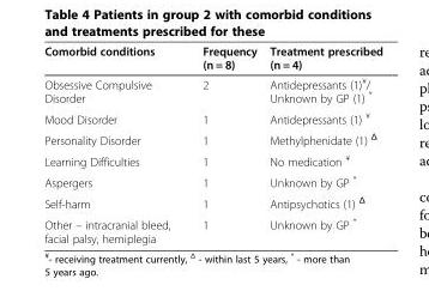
<table><thead><tr><td>Comorbid conditions</td><td>Frequency (n = 8)</td><td>Treatment prescribed (n = 4)</td></tr></thead><tbody><tr><td>Obsessive Compulsive Disorder</td><td>2</td><td>Antidepressants (1)<sup>¥</sup>/ Unknown by GP (1) *</td></tr><tr><td>Mood Disorder</td><td>1</td><td>Antidepressants (1) <sup>¥</sup></td></tr><tr><td>Personality Disorder</td><td>1</td><td>Methylphenidate (1) <sup>Δ</sup></td></tr><tr><td>Learning Difficulties</td><td>1</td><td>No medication <sup>¥</sup></td></tr><tr><td>Aspergers</td><td>1</td><td>Unknown by GP *</td></tr><tr><td>Self-harm</td><td>1</td><td>Antipsychotics (1) <sup>Δ</sup></td></tr><tr><td>Other – intracranial bleed, facial palsy, hemiplegia</td><td>1</td><td>Unknown by GP *</td></tr></tbody></table>